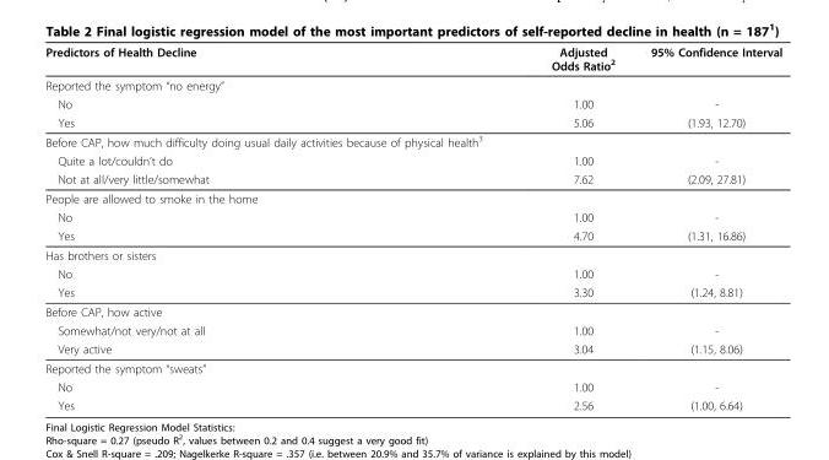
<table><thead><tr><td>Predictors of Health Decline</td><td>Adjusted Odds Ratio<sup>2</sup></td><td>95% Confidence Interval</td></tr></thead><tbody><tr><td colspan="3">Reported the symptom “no energy”</td></tr><tr><td>No</td><td>1.00</td><td>-</td></tr><tr><td>Yes</td><td>5.06</td><td>(1.93, 12.70)</td></tr><tr><td colspan="3">Before CAP, how much difficulty doing usual daily activities because of physical health<sup>3</sup></td></tr><tr><td>Quite a lot/couldn’t do</td><td>1.00</td><td>-</td></tr><tr><td>Not at all/very little/somewhat</td><td>7.62</td><td>(2.09, 27.81)</td></tr><tr><td colspan="3">People are allowed to smoke in the home</td></tr><tr><td>No</td><td>1.00</td><td>-</td></tr><tr><td>Yes</td><td>4.70</td><td>(1.31, 16.86)</td></tr><tr><td colspan="3">Has brothers or sisters</td></tr><tr><td>No</td><td>1.00</td><td>-</td></tr><tr><td>Yes</td><td>3.30</td><td>(1.24, 8.81)</td></tr><tr><td colspan="3">Before CAP, how active</td></tr><tr><td>Somewhat/not very/not at all</td><td>1.00</td><td>-</td></tr><tr><td>Very active</td><td>3.04</td><td>(1.15, 8.06)</td></tr><tr><td colspan="3">Reported the symptom “sweats”</td></tr><tr><td>No</td><td>1.00</td><td>-</td></tr><tr><td>Yes</td><td>2.56</td><td>(1.00, 6.64)</td></tr></tbody></table>